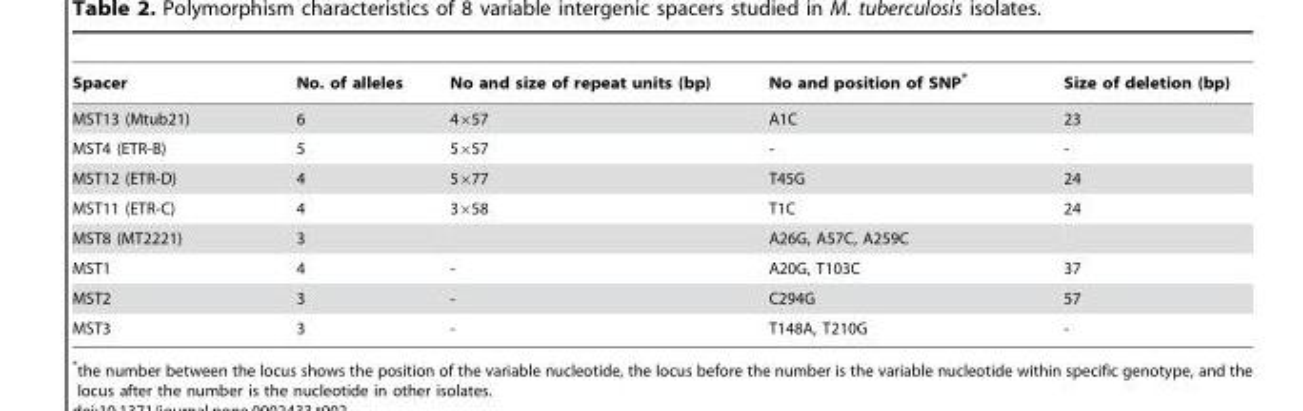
<table><thead><tr><td>Spacer</td><td>No. of alleles</td><td>No and size of repeat units (bp)</td><td>No and position of SNP*</td><td>Size of deletion (bp)</td></tr></thead><tbody><tr><td>MST13 (Mtub21)</td><td>6</td><td>4×57</td><td>A1C</td><td>23</td></tr><tr><td>MST4 (ETR-B)</td><td>5</td><td>5×57</td><td>-</td><td>-</td></tr><tr><td>MST12 (ETR-D)</td><td>4</td><td>5×77</td><td>T45G</td><td>24</td></tr><tr><td>MST11 (ETR-C)</td><td>4</td><td>3×58</td><td>T1C</td><td>24</td></tr><tr><td>MST8 (MT2221)</td><td>3</td><td></td><td>A26G, A57C, A259C</td><td></td></tr><tr><td>MST1</td><td>4</td><td>-</td><td>A20G, T103C</td><td>37</td></tr><tr><td>MST2</td><td>3</td><td>-</td><td>C294G</td><td>57</td></tr><tr><td>MST3</td><td>3</td><td>-</td><td>T148A, T210G</td><td>-</td></tr></tbody></table>